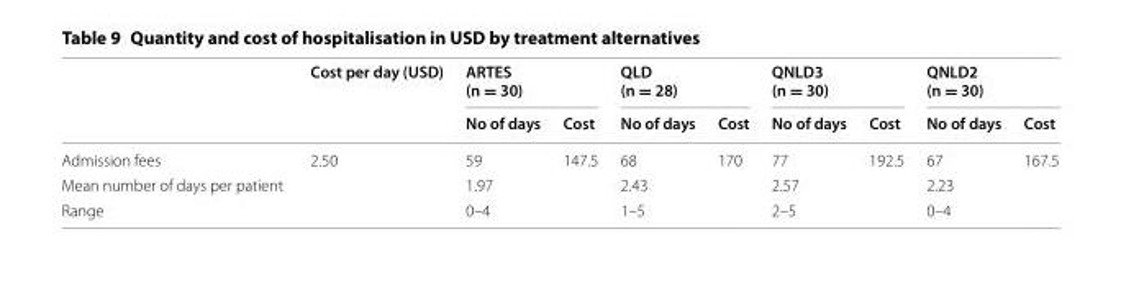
<table><thead><tr><td rowspan="2"></td><td rowspan="2">Cost per day (USD)</td><td colspan="2">ARTES (n = 30)</td><td colspan="2">QLD (n = 28)</td><td colspan="2">QNLD3 (n = 30)</td><td colspan="2">QNLD2 (n = 30)</td></tr><tr><td>No of days</td><td>Cost</td><td>No of days</td><td>Cost</td><td>No of days</td><td>Cost</td><td>No of days</td><td>Cost</td></tr></thead><tbody><tr><td>Admission fees</td><td>2.50</td><td>59</td><td>147.5</td><td>68</td><td>170</td><td>77</td><td>192.5</td><td>67</td><td>167.5</td></tr><tr><td>Mean number of days per patient</td><td></td><td>1.97</td><td></td><td>2.43</td><td></td><td>2.57</td><td></td><td>2.23</td><td></td></tr><tr><td>Range</td><td></td><td>0–4</td><td></td><td>1–5</td><td></td><td>2–5</td><td></td><td>0–4</td><td></td></tr></tbody></table>